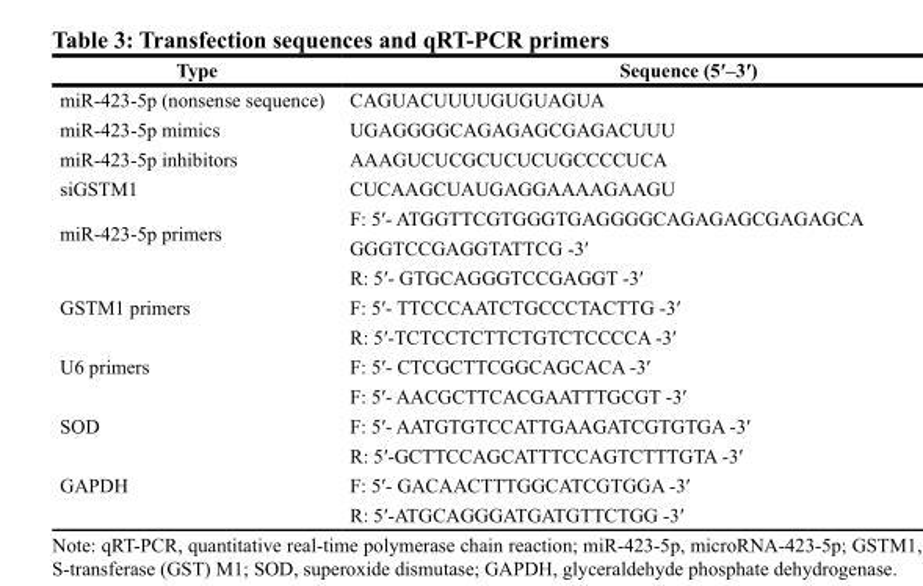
<table><thead><tr><td>Type</td><td>Sequence (5′–3′)</td></tr></thead><tbody><tr><td>miR-423-5p (nonsense sequence)</td><td>CAGUACUUUUGUGUAGUA</td></tr><tr><td>miR-423-5p mimics</td><td>UGAGGGGCAGAGAGCGAGACUUU</td></tr><tr><td>miR-423-5p inhibitors</td><td>AAAGUCUCGCUCUCUGCCCCUCA</td></tr><tr><td>siGSTM1</td><td>CUCAAGCUAUGAGGAAAAGAAGU</td></tr><tr><td rowspan="3">miR-423-5p primers</td><td>F: 5′- ATGGTTCGTGGGTGAGGGGCAGAGAGCGAGAGCA</td></tr><tr><td>GGGTCCGAGGTATTCG -3′</td></tr><tr><td>R: 5′- GTGCAGGGTCCGAGGT -3′</td></tr><tr><td rowspan="2">GSTM1 primers</td><td>F: 5′- TTCCCAATCTGCCCTACTTG -3′</td></tr><tr><td>R: 5′-TCTCCTCTTCTGTCTCCCCA -3′</td></tr><tr><td rowspan="2">U6 primers</td><td>F: 5′- CTCGCTTCGGCAGCACA -3′</td></tr><tr><td>F: 5′- AACGCTTCACGAATTTGCGT -3′</td></tr><tr><td rowspan="2">SOD</td><td>F: 5′- AATGTGTCCATTGAAGATCGTGTGA -3′</td></tr><tr><td>R: 5′-GCTTCCAGCATTTCCAGTCTTTGTA -3′</td></tr><tr><td rowspan="2">GAPDH</td><td>F: 5′- GACAACTTTGGCATCGTGGA -3′</td></tr><tr><td>R: 5′-ATGCAGGGATGATGTTCTGG -3′</td></tr></tbody></table>